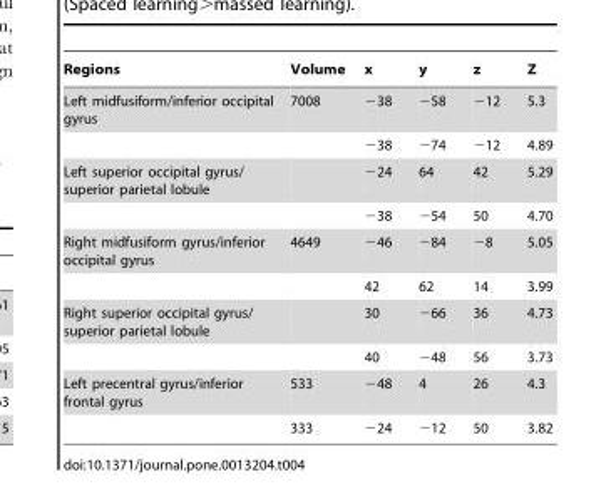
<table><thead><tr><td>Regions</td><td>Volume</td><td>x</td><td>y</td><td>z</td><td>Z</td></tr></thead><tbody><tr><td rowspan="2">Left midfusiform/inferior occipital gyrus</td><td>7008</td><td>−38</td><td>−58</td><td>−12</td><td>5.3</td></tr><tr><td></td><td>−38</td><td>−74</td><td>−12</td><td>4.89</td></tr><tr><td rowspan="2">Left superior occipital gyrus/ superior parietal lobule</td><td></td><td>−24</td><td>64</td><td>42</td><td>5.29</td></tr><tr><td></td><td>−38</td><td>−54</td><td>50</td><td>4.70</td></tr><tr><td rowspan="2">Right midfusiform gyrus/inferior occipital gyrus</td><td>4649</td><td>−46</td><td>−84</td><td>−8</td><td>5.05</td></tr><tr><td></td><td>42</td><td>62</td><td>14</td><td>3.99</td></tr><tr><td rowspan="2">Right superior occipital gyrus/ superior parietal lobule</td><td></td><td>30</td><td>−66</td><td>36</td><td>4.73</td></tr><tr><td></td><td>40</td><td>−48</td><td>56</td><td>3.73</td></tr><tr><td rowspan="2">Left precentral gyrus/inferior frontal gyrus</td><td>533</td><td>−48</td><td>4</td><td>26</td><td>4.3</td></tr><tr><td>333</td><td>−24</td><td>−12</td><td>50</td><td>3.82</td></tr></tbody></table>